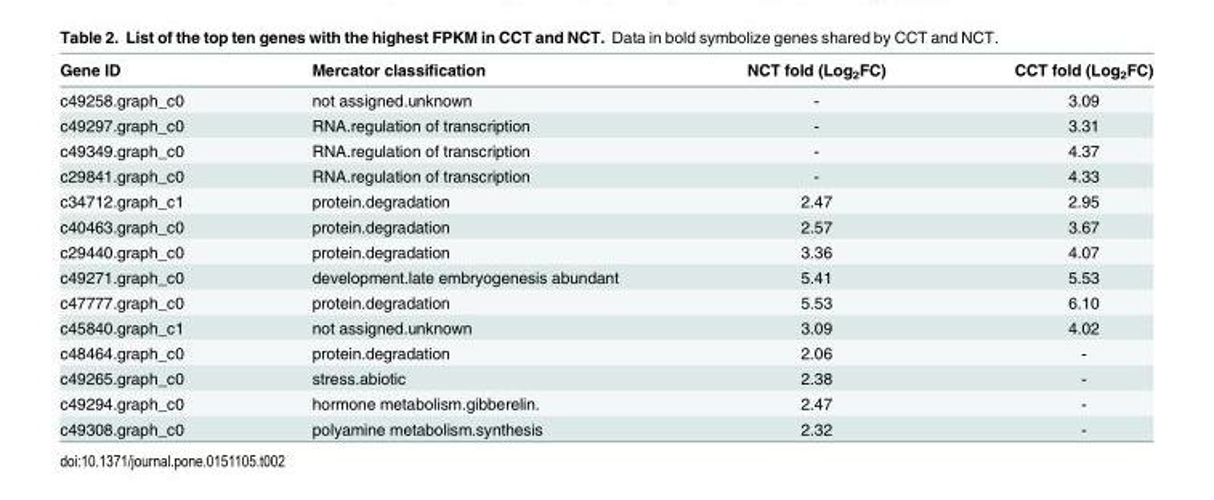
<table><thead><tr><td>Gene ID</td><td>Mercator classification</td><td>NCT fold (Log<sub>2</sub>FC)</td><td>CCT fold (Log<sub>2</sub>FC)</td></tr></thead><tbody><tr><td>c49258.graph_c0</td><td>not assigned.unknown</td><td>-</td><td>3.09</td></tr><tr><td>c49297.graph_c0</td><td>RNA.regulation of transcription</td><td>-</td><td>3.31</td></tr><tr><td>c49349.graph_c0</td><td>RNA.regulation of transcription</td><td>-</td><td>4.37</td></tr><tr><td>c29841.graph_c0</td><td>RNA.regulation of transcription</td><td>-</td><td>4.33</td></tr><tr><td>c34712.graph_c1</td><td>protein.degradation</td><td>2.47</td><td>2.95</td></tr><tr><td>c40463.graph_c0</td><td>protein.degradation</td><td>2.57</td><td>3.67</td></tr><tr><td>c29440.graph_c0</td><td>protein.degradation</td><td>3.36</td><td>4.07</td></tr><tr><td>c49271.graph_c0</td><td>development.late embryogenesis abundant</td><td>5.41</td><td>5.53</td></tr><tr><td>c47777.graph_c0</td><td>protein.degradation</td><td>5.53</td><td>6.10</td></tr><tr><td>c45840.graph_c1</td><td>not assigned.unknown</td><td>3.09</td><td>4.02</td></tr><tr><td>c48464.graph_c0</td><td>protein.degradation</td><td>2.06</td><td>-</td></tr><tr><td>c49265.graph_c0</td><td>stress.abiotic</td><td>2.38</td><td>-</td></tr><tr><td>c49294.graph_c0</td><td>hormone metabolism.gibberelin.</td><td>2.47</td><td>-</td></tr><tr><td>c49308.graph_c0</td><td>polyamine metabolism.synthesis</td><td>2.32</td><td>-</td></tr></tbody></table>